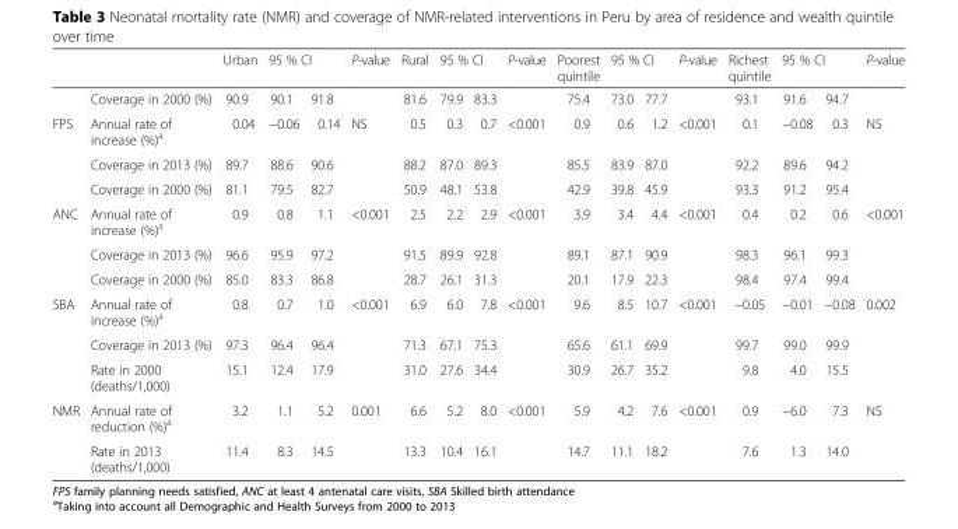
<table><thead><tr><td rowspan="2"></td><td rowspan="2">Coverage in 2000 (%)</td><td rowspan="2">Urban 90.9</td><td colspan="2">95 % CI</td><td rowspan="2">P-value</td><td rowspan="2">Rural 81.6</td><td colspan="2">95 % CI</td><td rowspan="2">P-value</td><td rowspan="2">Poorest quintile 75.4</td><td colspan="2">95 % CI</td><td rowspan="2">P-value</td><td rowspan="2">Richest quintile 93.1</td><td colspan="2">95 % CI</td><td rowspan="2">P-value</td></tr><tr><td>90.1</td><td>91.8</td><td>79.9</td><td>83.3</td><td>73.0</td><td>77.7</td><td>91.6</td><td>94.7</td></tr></thead><tbody><tr><td rowspan="3">FPS</td><td>Annual rate of increase (%)<sup>a</sup></td><td>0.04</td><td>−0.06</td><td>0.14</td><td>NS</td><td>0.5</td><td>0.3</td><td>0.7</td><td>&lt;0.001</td><td>0.9</td><td>0.6</td><td>1.2</td><td>&lt;0.001</td><td>0.1</td><td>−0.08</td><td>0.3</td><td>NS</td></tr><tr><td>Coverage in 2013 (%)</td><td>89.7</td><td>88.6</td><td>90.6</td><td></td><td>88.2</td><td>87.0</td><td>89.3</td><td></td><td>85.5</td><td>83.9</td><td>87.0</td><td></td><td>92.2</td><td>89.6</td><td>94.2</td><td></td></tr><tr><td>Coverage in 2000 (%)</td><td>81.1</td><td>79.5</td><td>82.7</td><td></td><td>50.9</td><td>48.1</td><td>53.8</td><td></td><td>42.9</td><td>39.8</td><td>45.9</td><td></td><td>93.3</td><td>91.2</td><td>95.4</td><td></td></tr><tr><td rowspan="3">ANC</td><td>Annual rate of increase (%)<sup>a</sup></td><td>0.9</td><td>0.8</td><td>1.1</td><td>&lt;0.001</td><td>2.5</td><td>2.2</td><td>2.9</td><td>&lt;0.001</td><td>3.9</td><td>3.4</td><td>4.4</td><td>&lt;0.001</td><td>0.4</td><td>0.2</td><td>0.6</td><td>&lt;0.001</td></tr><tr><td>Coverage in 2013 (%)</td><td>96.6</td><td>95.9</td><td>97.2</td><td></td><td>91.5</td><td>89.9</td><td>92.8</td><td></td><td>89.1</td><td>87.1</td><td>90.9</td><td></td><td>98.3</td><td>96.1</td><td>99.3</td><td></td></tr><tr><td>Coverage in 2000 (%)</td><td>85.0</td><td>83.3</td><td>86.8</td><td></td><td>28.7</td><td>26.1</td><td>31.3</td><td></td><td>20.1</td><td>17.9</td><td>22.3</td><td></td><td>98.4</td><td>97.4</td><td>99.4</td><td></td></tr><tr><td rowspan="3">SBA</td><td>Annual rate of increase (%)<sup>a</sup></td><td>0.8</td><td>0.7</td><td>1.0</td><td>&lt;0.001</td><td>6.9</td><td>6.0</td><td>7.8</td><td>&lt;0.001</td><td>9.6</td><td>8.5</td><td>10.7</td><td>&lt;0.001</td><td>−0.05</td><td>−0.01</td><td>−0.08</td><td>0.002</td></tr><tr><td>Coverage in 2013 (%)</td><td>97.3</td><td>96.4</td><td>96.4</td><td></td><td>71.3</td><td>67.1</td><td>75.3</td><td></td><td>65.6</td><td>61.1</td><td>69.9</td><td></td><td>99.7</td><td>99.0</td><td>99.9</td><td></td></tr><tr><td>Rate in 2000 (deaths/1,000)</td><td>15.1</td><td>12.4</td><td>17.9</td><td></td><td>31.0</td><td>27.6</td><td>34.4</td><td></td><td>30.9</td><td>26.7</td><td>35.2</td><td></td><td>9.8</td><td>4.0</td><td>15.5</td><td></td></tr><tr><td rowspan="2">NMR</td><td>Annual rate of reduction (%)<sup>a</sup></td><td>3.2</td><td>1.1</td><td>5.2</td><td>0.001</td><td>6.6</td><td>5.2</td><td>8.0</td><td>&lt;0.001</td><td>5.9</td><td>4.2</td><td>7.6</td><td>&lt;0.001</td><td>0.9</td><td>−6.0</td><td>7.3</td><td>NS</td></tr><tr><td>Rate in 2013 (deaths/1,000)</td><td>11.4</td><td>8.3</td><td>14.5</td><td></td><td>13.3</td><td>10.4</td><td>16.1</td><td></td><td>14.7</td><td>11.1</td><td>18.2</td><td></td><td>7.6</td><td>1.3</td><td>14.0</td><td></td></tr></tbody></table>